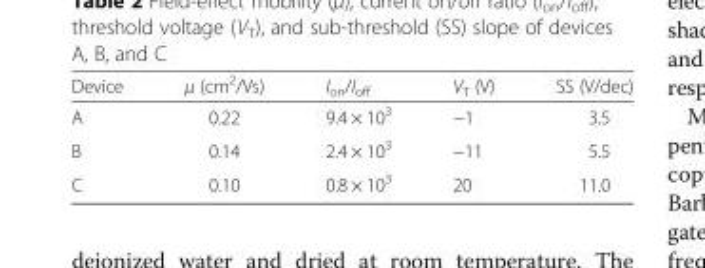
<table><thead><tr><td>Device</td><td>μ (cm<sup>2</sup>/Vs)</td><td>I<sub>on</sub>/I<sub>off</sub></td><td>V<sub>T</sub> (V)</td><td>SS (V/dec)</td></tr></thead><tbody><tr><td>A</td><td>0.22</td><td>9.4 × 10<sup>3</sup></td><td>−1</td><td>3.5</td></tr><tr><td>B</td><td>0.14</td><td>2.4 × 10<sup>3</sup></td><td>−11</td><td>5.5</td></tr><tr><td>C</td><td>0.10</td><td>0.8 × 10<sup>3</sup></td><td>20</td><td>11.0</td></tr></tbody></table>